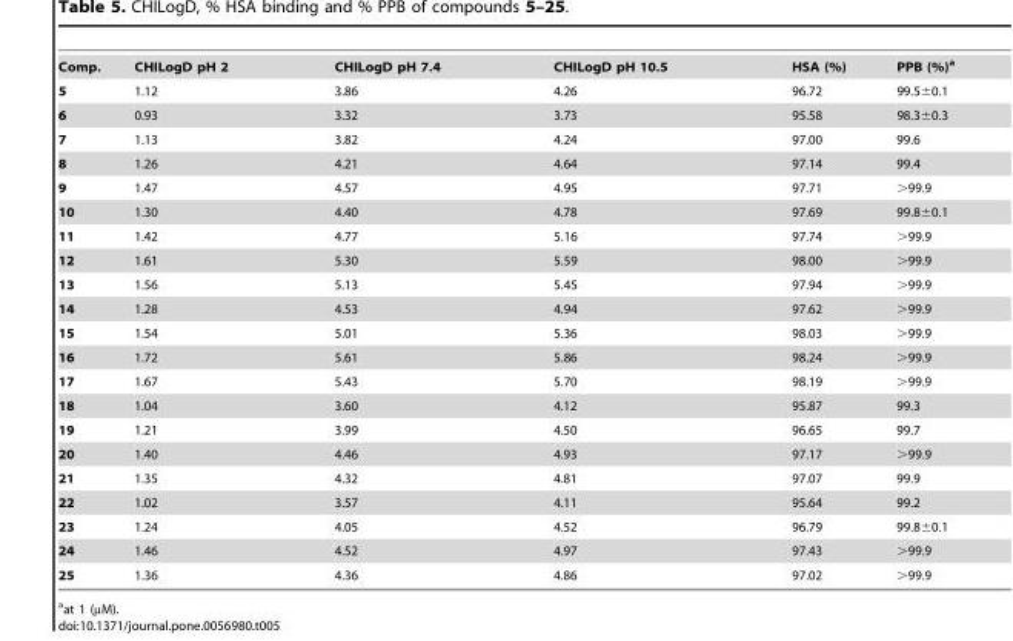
<table><tbody><tr><td>Comp.</td><td>CHILogD pH 2</td><td>CHILogD pH 7.4</td><td>CHILogD pH 10.5</td><td>HSA (%)</td><td>PPB (%)a</td></tr><tr><td>5</td><td>1.12</td><td>3.86</td><td>4.26</td><td>96.72</td><td>99.5±0.1</td></tr><tr><td>6</td><td>0.93</td><td>3.32</td><td>3.73</td><td>95.58</td><td>98.3±0.3</td></tr><tr><td>7</td><td>1.13</td><td>3.82</td><td>4.24</td><td>97.00</td><td>99.6</td></tr><tr><td>8</td><td>1.26</td><td>4.21</td><td>4.64</td><td>97.14</td><td>99.4</td></tr><tr><td>9</td><td>1.47</td><td>4.57</td><td>4.95</td><td>97.71</td><td>&gt;99.9</td></tr><tr><td>10</td><td>1.30</td><td>4.40</td><td>4.78</td><td>97.69</td><td>99.8±0.1</td></tr><tr><td>11</td><td>1.42</td><td>4.77</td><td>5.16</td><td>97.74</td><td>&gt;99.9</td></tr><tr><td>12</td><td>1.61</td><td>5.30</td><td>5.59</td><td>98.00</td><td>&gt;99.9</td></tr><tr><td>13</td><td>1.56</td><td>5.13</td><td>5.45</td><td>97.94</td><td>&gt;99.9</td></tr><tr><td>14</td><td>1.28</td><td>4.53</td><td>4.94</td><td>97.62</td><td>&gt;99.9</td></tr><tr><td>15</td><td>1.54</td><td>5.01</td><td>5.36</td><td>98.03</td><td>&gt;99.9</td></tr><tr><td>16</td><td>1.72</td><td>5.61</td><td>5.86</td><td>98.24</td><td>&gt;99.9</td></tr><tr><td>17</td><td>1.67</td><td>5.43</td><td>5.70</td><td>98.19</td><td>&gt;99.9</td></tr><tr><td>18</td><td>1.04</td><td>3.60</td><td>4.12</td><td>95.87</td><td>99.3</td></tr><tr><td>19</td><td>1.21</td><td>3.99</td><td>4.50</td><td>96.65</td><td>99.7</td></tr><tr><td>20</td><td>1.40</td><td>4.46</td><td>4.93</td><td>97.17</td><td>&gt;99.9</td></tr><tr><td>21</td><td>1.35</td><td>4.32</td><td>4.81</td><td>97.07</td><td>99.9</td></tr><tr><td>22</td><td>1.02</td><td>3.57</td><td>4.11</td><td>95.64</td><td>99.2</td></tr><tr><td>23</td><td>1.24</td><td>4.05</td><td>4.52</td><td>96.79</td><td>99.8±0.1</td></tr><tr><td>24</td><td>1.46</td><td>4.52</td><td>4.97</td><td>97.43</td><td>&gt;99.9</td></tr><tr><td>25</td><td>1.36</td><td>4.36</td><td>4.86</td><td>97.02</td><td>&gt;99.9</td></tr></tbody></table>